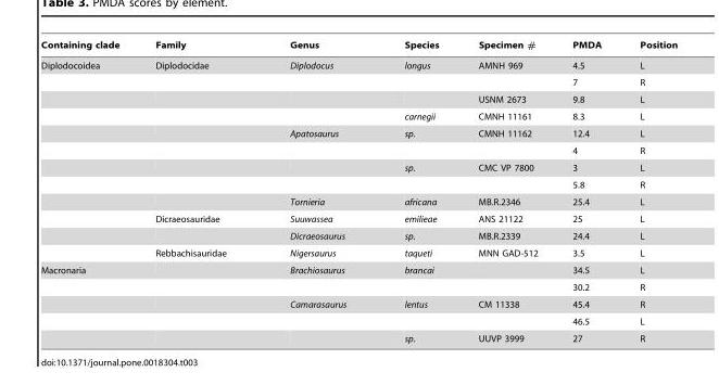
<table><thead><tr><td>Containing clade</td><td>Family</td><td>Genus</td><td>Species</td><td>Specimen #</td><td>PMDA</td><td>Position</td></tr></thead><tbody><tr><td rowspan="12">Diplodocoidea</td><td>Diplodocidae</td><td>Diplodocus</td><td>longus</td><td>AMNH 969</td><td>4.5</td><td>L</td></tr><tr><td></td><td></td><td></td><td></td><td>7</td><td>R</td></tr><tr><td></td><td></td><td></td><td>USNM 2673</td><td>9.8</td><td>L</td></tr><tr><td></td><td></td><td>carnegii</td><td>CMNH 11161</td><td>8.3</td><td>L</td></tr><tr><td></td><td>Apatosaurus</td><td>sp.</td><td>CMNH 11162</td><td>12.4</td><td>L</td></tr><tr><td></td><td></td><td></td><td></td><td>4</td><td>R</td></tr><tr><td></td><td></td><td>sp.</td><td>CMC VP 7800</td><td>3</td><td>L</td></tr><tr><td></td><td></td><td></td><td></td><td>5.8</td><td>R</td></tr><tr><td></td><td>Tornieria</td><td>africana</td><td>MB.R.2346</td><td>25.4</td><td>L</td></tr><tr><td>Dicraeosauridae</td><td>Suuwassea</td><td>emilieae</td><td>ANS 21122</td><td>25</td><td>L</td></tr><tr><td></td><td>Dicraeosaurus</td><td>sp.</td><td>MB.R.2339</td><td>24.4</td><td>L</td></tr><tr><td>Rebbachisauridae</td><td>Nigersaurus</td><td>taqueti</td><td>MNN GAD-512</td><td>3.5</td><td>L</td></tr><tr><td rowspan="5">Macronaria</td><td></td><td>Brachiosaurus</td><td>brancai</td><td></td><td>34.5</td><td>L</td></tr><tr><td></td><td></td><td></td><td></td><td>30.2</td><td>R</td></tr><tr><td></td><td>Camarasaurus</td><td>lentus</td><td>CM 11338</td><td>45.4</td><td>R</td></tr><tr><td></td><td></td><td></td><td></td><td>46.5</td><td>L</td></tr><tr><td></td><td></td><td>sp.</td><td>UUVP 3999</td><td>27</td><td>R</td></tr></tbody></table>